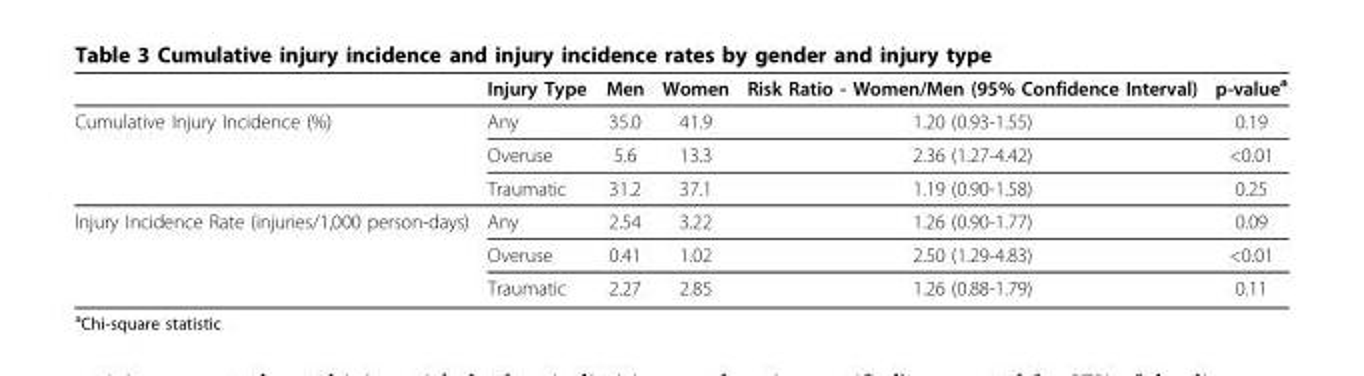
<table><thead><tr><td></td><td>Injury Type</td><td>Men</td><td>Women</td><td>Risk Ratio - Women/Men (95% Confidence Interval)</td><td>p-value<sup>a</sup></td></tr></thead><tbody><tr><td rowspan="3">Cumulative Injury Incidence (%)</td><td>Any</td><td>35.0</td><td>41.9</td><td>1.20 (0.93-1.55)</td><td>0.19</td></tr><tr><td>Overuse</td><td>5.6</td><td>13.3</td><td>2.36 (1.27-4.42)</td><td>&lt;0.01</td></tr><tr><td>Traumatic</td><td>31.2</td><td>37.1</td><td>1.19 (0.90-1.58)</td><td>0.25</td></tr><tr><td rowspan="3">Injury Incidence Rate (injuries/1,000 person-days)</td><td>Any</td><td>2.54</td><td>3.22</td><td>1.26 (0.90-1.77)</td><td>0.09</td></tr><tr><td>Overuse</td><td>0.41</td><td>1.02</td><td>2.50 (1.29-4.83)</td><td>&lt;0.01</td></tr><tr><td>Traumatic</td><td>2.27</td><td>2.85</td><td>1.26 (0.88-1.79)</td><td>0.11</td></tr></tbody></table>